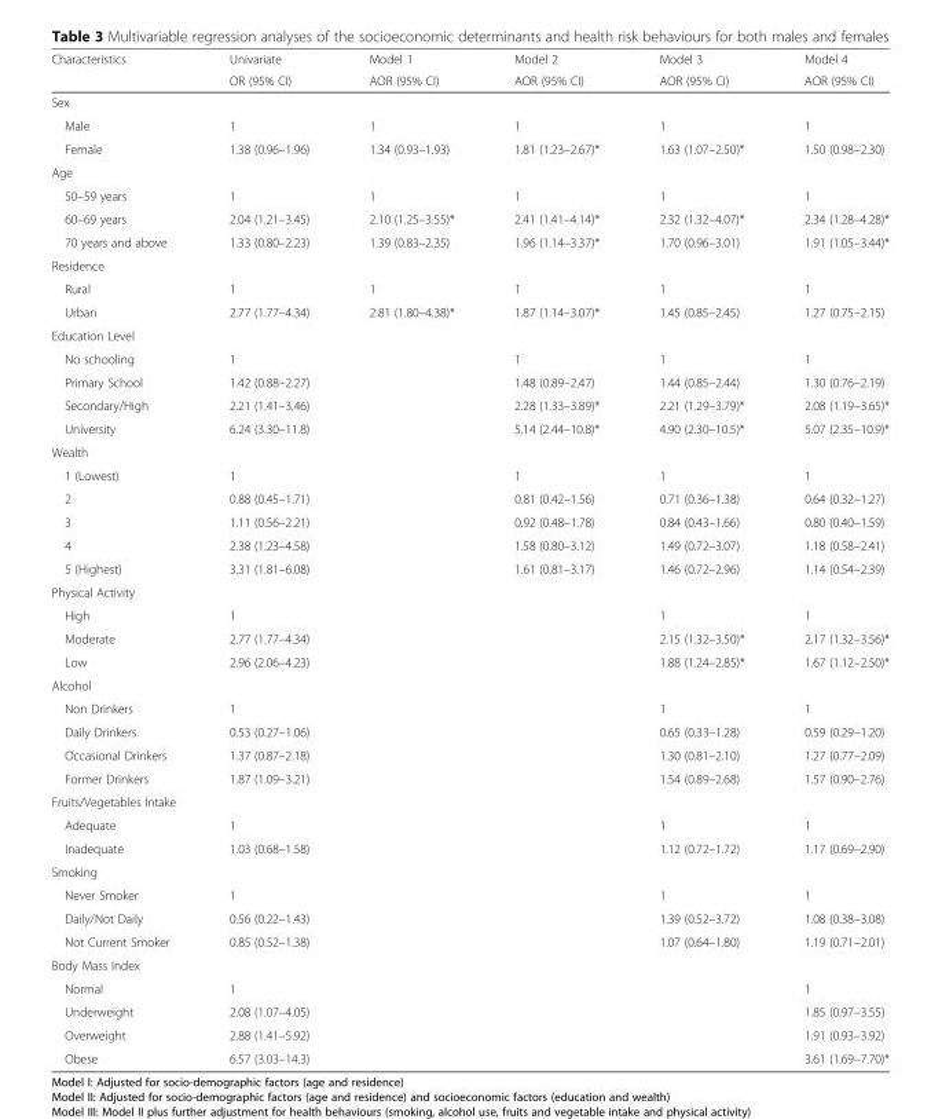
<table><thead><tr><td rowspan="2">Characteristics</td><td rowspan="2">Univariate OR (95% CI)</td><td rowspan="2">Model 1 AOR (95% CI)</td><td rowspan="2">Model 2 AOR (95% CI)</td><td rowspan="2">Model 3 AOR (95% CI)</td><td rowspan="2">Model 4 AOR (95% CI)</td></tr><tr></tr></thead><tbody><tr><td colspan="6">Sex</td></tr><tr><td>Male</td><td>1</td><td>1</td><td>1</td><td>1</td><td>1</td></tr><tr><td>Female</td><td>1.38 (0.96–1.96)</td><td>1.34 (0.93–1.93)</td><td>1.81 (1.23–2.67)*</td><td>1.63 (1.07–2.50)*</td><td>1.50 (0.98–2.30)</td></tr><tr><td colspan="6">Age</td></tr><tr><td>50–59 years</td><td>1</td><td>1</td><td>1</td><td>1</td><td>1</td></tr><tr><td>60–69 years</td><td>2.04 (1.21–3.45)</td><td>2.10 (1.25–3.55)*</td><td>2.41 (1.41–4.14)*</td><td>2.32 (1.32–4.07)*</td><td>2.34 (1.28–4.28)*</td></tr><tr><td>70 years and above</td><td>1.33 (0.80–2.23)</td><td>1.39 (0.83–2.35)</td><td>1.96 (1.14–3.37)*</td><td>1.70 (0.96–3.01)</td><td>1.91 (1.05–3.44)*</td></tr><tr><td colspan="6">Residence</td></tr><tr><td>Rural</td><td>1</td><td>1</td><td>1</td><td>1</td><td>1</td></tr><tr><td>Urban</td><td>2.77 (1.77–4.34)</td><td>2.81 (1.80–4.38)*</td><td>1.87 (1.14–3.07)*</td><td>1.45 (0.85–2.45)</td><td>1.27 (0.75–2.15)</td></tr><tr><td colspan="6">Education Level</td></tr><tr><td>No schooling</td><td>1</td><td></td><td>1</td><td>1</td><td>1</td></tr><tr><td>Primary School</td><td>1.42 (0.88–2.27)</td><td></td><td>1.48 (0.89–2.47)</td><td>1.44 (0.85–2.44)</td><td>1.30 (0.76–2.19)</td></tr><tr><td>Secondary/High</td><td>2.21 (1.41–3.46)</td><td></td><td>2.28 (1.33–3.89)*</td><td>2.21 (1.29–3.79)*</td><td>2.08 (1.19–3.65)*</td></tr><tr><td>University</td><td>6.24 (3.30–11.8)</td><td></td><td>5.14 (2.44–10.8)*</td><td>4.90 (2.30–10.5)*</td><td>5.07 (2.35–10.9)*</td></tr><tr><td colspan="6">Wealth</td></tr><tr><td>1 (Lowest)</td><td>1</td><td></td><td>1</td><td>1</td><td>1</td></tr><tr><td>2</td><td>0.88 (0.45–1.71)</td><td></td><td>0.81 (0.42–1.56)</td><td>0.71 (0.36–1.38)</td><td>0.64 (0.32–1.27)</td></tr><tr><td>3</td><td>1.11 (0.56–2.21)</td><td></td><td>0.92 (0.48–1.78)</td><td>0.84 (0.43–1.66)</td><td>0.80 (0.40–1.59)</td></tr><tr><td>4</td><td>2.38 (1.23–4.58)</td><td></td><td>1.58 (0.80–3.12)</td><td>1.49 (0.72–3.07)</td><td>1.18 (0.58–2.41)</td></tr><tr><td>5 (Highest)</td><td>3.31 (1.81–6.08)</td><td></td><td>1.61 (0.81–3.17)</td><td>1.46 (0.72–2.96)</td><td>1.14 (0.54–2.39)</td></tr><tr><td colspan="6">Physical Activity</td></tr><tr><td>High</td><td>1</td><td></td><td></td><td>1</td><td>1</td></tr><tr><td>Moderate</td><td>2.77 (1.77–4.34)</td><td></td><td></td><td>2.15 (1.32–3.50)*</td><td>2.17 (1.32–3.56)*</td></tr><tr><td>Low</td><td>2.96 (2.06–4.23)</td><td></td><td></td><td>1.88 (1.24–2.85)*</td><td>1.67 (1.12–2.50)*</td></tr><tr><td colspan="6">Alcohol</td></tr><tr><td>Non Drinkers</td><td>1</td><td></td><td></td><td>1</td><td>1</td></tr><tr><td>Daily Drinkers</td><td>0.53 (0.27–1.06)</td><td></td><td></td><td>0.65 (0.33–1.28)</td><td>0.59 (0.29–1.20)</td></tr><tr><td>Occasional Drinkers</td><td>1.37 (0.87–2.18)</td><td></td><td></td><td>1.30 (0.81–2.10)</td><td>1.27 (0.77–2.09)</td></tr><tr><td>Former Drinkers</td><td>1.87 (1.09–3.21)</td><td></td><td></td><td>1.54 (0.89–2.68)</td><td>1.57 (0.90–2.76)</td></tr><tr><td colspan="6">Fruits/Vegetables Intake</td></tr><tr><td>Adequate</td><td>1</td><td></td><td></td><td>1</td><td>1</td></tr><tr><td>Inadequate</td><td>1.03 (0.68–1.58)</td><td></td><td></td><td>1.12 (0.72–1.72)</td><td>1.17 (0.69–2.90)</td></tr><tr><td colspan="6">Smoking</td></tr><tr><td>Never Smoker</td><td>1</td><td></td><td></td><td>1</td><td>1</td></tr><tr><td>Daily/Not Daily</td><td>0.56 (0.22–1.43)</td><td></td><td></td><td>1.39 (0.52–3.72)</td><td>1.08 (0.38–3.08)</td></tr><tr><td>Not Current Smoker</td><td>0.85 (0.52–1.38)</td><td></td><td></td><td>1.07 (0.64–1.80)</td><td>1.19 (0.71–2.01)</td></tr><tr><td colspan="6">Body Mass Index</td></tr><tr><td>Normal</td><td>1</td><td></td><td></td><td></td><td>1</td></tr><tr><td>Underweight</td><td>2.08 (1.07–4.05)</td><td></td><td></td><td></td><td>1.85 (0.97–3.55)</td></tr><tr><td>Overweight</td><td>2.88 (1.41–5.92)</td><td></td><td></td><td></td><td>1.91 (0.93–3.92)</td></tr><tr><td>Obese</td><td>6.57 (3.03–14.3)</td><td></td><td></td><td></td><td>3.61 (1.69–7.70)*</td></tr></tbody></table>